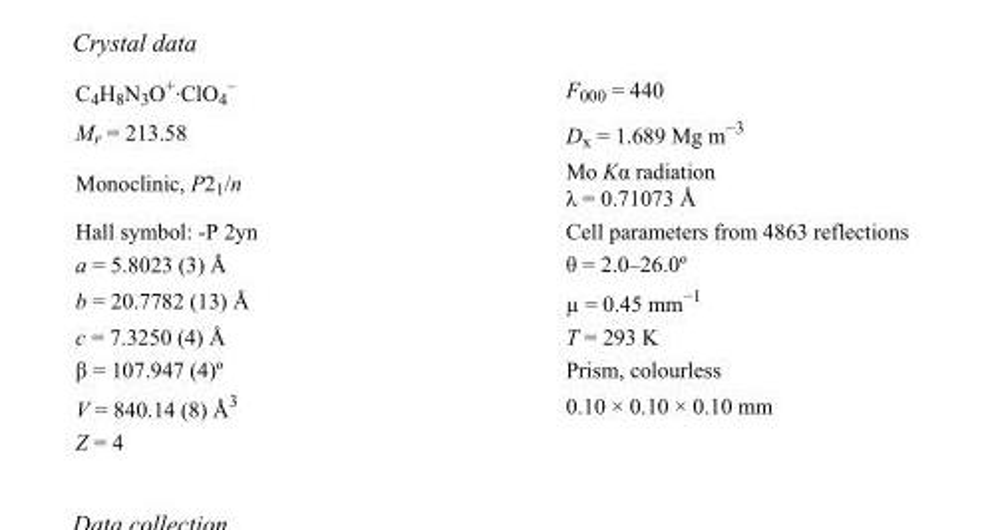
<table><tbody><tr><td>C<sub>4</sub>H<sub>8</sub>N<sub>3</sub>O<sup>+</sup>·ClO<sub>4</sub> <sup>–</sup></td><td>F000 = 440</td></tr><tr><td>M<sub>r</sub> = 213.58</td><td>D<sub>x</sub> = 1.689 Mg m<sup>−3</sup></td></tr><tr><td>Monoclinic, P2<sub>1</sub>/n</td><td>Mo Kα radiation λ = 0.71073 Å</td></tr><tr><td>Hall symbol: -P 2yn</td><td>Cell parameters from 4863 reflections</td></tr><tr><td>a = 5.8023 (3) Å</td><td>θ = 2.0–26.0º</td></tr><tr><td>b = 20.7782 (13) Å</td><td>µ = 0.45 mm<sup>−1</sup></td></tr><tr><td>c = 7.3250 (4) Å</td><td>T = 293 K</td></tr><tr><td>β = 107.947 (4)º</td><td>Prism, colourless</td></tr><tr><td>V = 840.14 (8) Å<sup>3</sup></td><td>0.10 × 0.10 × 0.10 mm</td></tr><tr><td>Z = 4</td><td></td></tr></tbody></table>